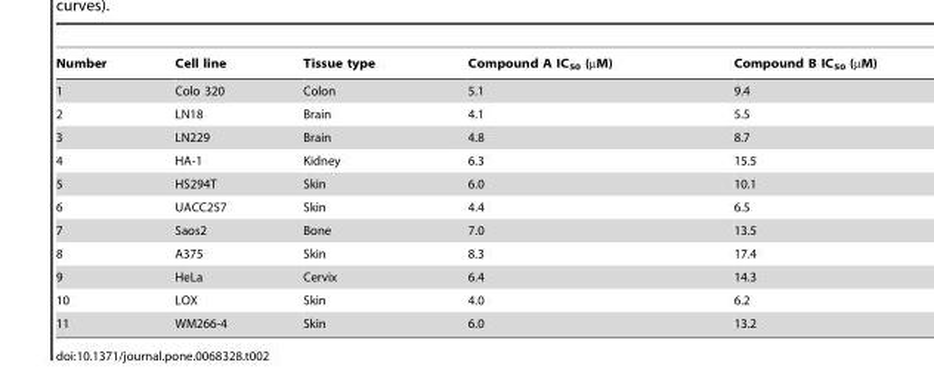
<table><thead><tr><td>Number</td><td>Cell line</td><td>Tissue type</td><td>Compound A IC<sub>50</sub> (µM)</td><td>Compound B IC<sub>50</sub> (µM)</td></tr></thead><tbody><tr><td>1</td><td>Colo 320</td><td>Colon</td><td>5.1</td><td>9.4</td></tr><tr><td>2</td><td>LN18</td><td>Brain</td><td>4.1</td><td>5.5</td></tr><tr><td>3</td><td>LN229</td><td>Brain</td><td>4.8</td><td>8.7</td></tr><tr><td>4</td><td>HA-1</td><td>Kidney</td><td>6.3</td><td>15.5</td></tr><tr><td>5</td><td>HS294T</td><td>Skin</td><td>6.0</td><td>10.1</td></tr><tr><td>6</td><td>UACC257</td><td>Skin</td><td>4.4</td><td>6.5</td></tr><tr><td>7</td><td>Saos2</td><td>Bone</td><td>7.0</td><td>13.5</td></tr><tr><td>8</td><td>A375</td><td>Skin</td><td>8.3</td><td>17.4</td></tr><tr><td>9</td><td>HeLa</td><td>Cervix</td><td>6.4</td><td>14.3</td></tr><tr><td>10</td><td>LOX</td><td>Skin</td><td>4.0</td><td>6.2</td></tr><tr><td>11</td><td>WM266-4</td><td>Skin</td><td>6.0</td><td>13.2</td></tr></tbody></table>